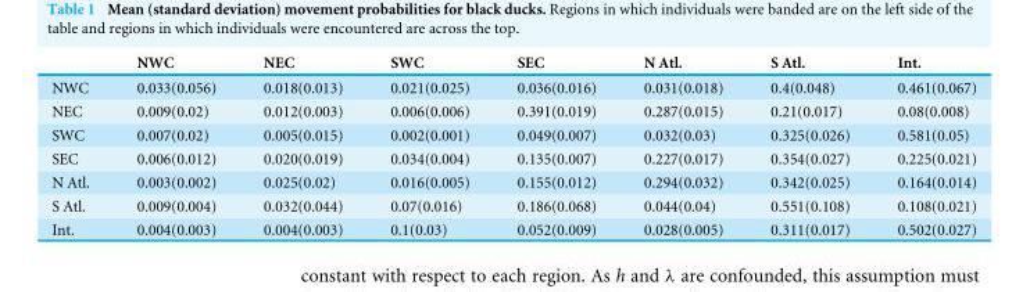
<table><thead><tr><td></td><td>NWC</td><td>NEC</td><td>SWC</td><td>SEC</td><td>N Atl.</td><td>S Atl.</td><td>Int.</td></tr></thead><tbody><tr><td>NWC</td><td>0.033(0.056)</td><td>0.018(0.013)</td><td>0.021(0.025)</td><td>0.036(0.016)</td><td>0.031(0.018)</td><td>0.4(0.048)</td><td>0.461(0.067)</td></tr><tr><td>NEC</td><td>0.009(0.02)</td><td>0.012(0.003)</td><td>0.006(0.006)</td><td>0.391(0.019)</td><td>0.287(0.015)</td><td>0.21(0.017)</td><td>0.08(0.008)</td></tr><tr><td>SWC</td><td>0.007(0.02)</td><td>0.005(0.015)</td><td>0.002(0.001)</td><td>0.049(0.007)</td><td>0.032(0.03)</td><td>0.325(0.026)</td><td>0.581(0.05)</td></tr><tr><td>SEC</td><td>0.006(0.012)</td><td>0.020(0.019)</td><td>0.034(0.004)</td><td>0.135(0.007)</td><td>0.227(0.017)</td><td>0.354(0.027)</td><td>0.225(0.021)</td></tr><tr><td>N Atl.</td><td>0.003(0.002)</td><td>0.025(0.02)</td><td>0.016(0.005)</td><td>0.155(0.012)</td><td>0.294(0.032)</td><td>0.342(0.025)</td><td>0.164(0.014)</td></tr><tr><td>S Atl.</td><td>0.009(0.004)</td><td>0.032(0.044)</td><td>0.07(0.016)</td><td>0.186(0.068)</td><td>0.044(0.04)</td><td>0.551(0.108)</td><td>0.108(0.021)</td></tr><tr><td>Int.</td><td>0.004(0.003)</td><td>0.004(0.003)</td><td>0.1(0.03)</td><td>0.052(0.009)</td><td>0.028(0.005)</td><td>0.311(0.017)</td><td>0.502(0.027)</td></tr></tbody></table>